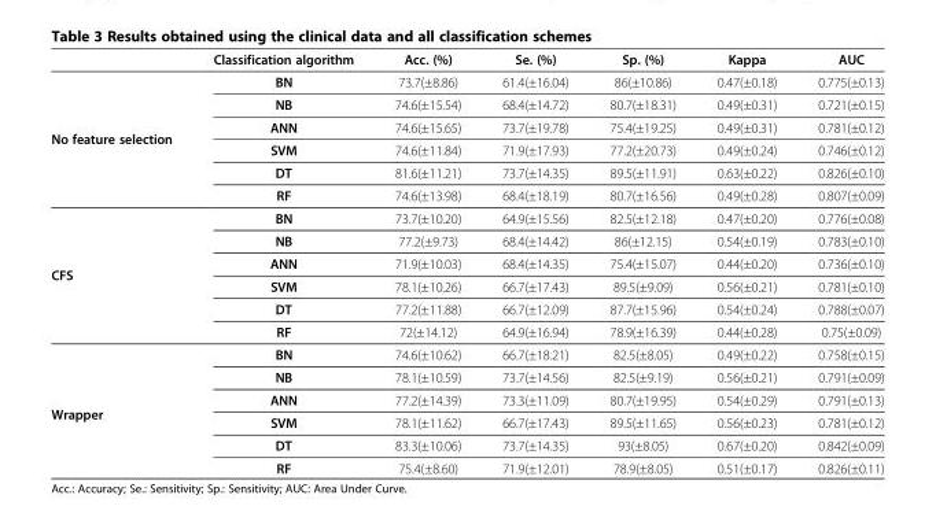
<table><thead><tr><td></td><td>Classification algorithm</td><td>Acc. (%)</td><td>Se. (%)</td><td>Sp. (%)</td><td>Kappa</td><td>AUC</td></tr></thead><tbody><tr><td rowspan="6">No feature selection</td><td>BN</td><td>73.7(±8.86)</td><td>61.4(±16.04)</td><td>86(±10.86)</td><td>0.47(±0.18)</td><td>0.775(±0.13)</td></tr><tr><td>NB</td><td>74.6(±15.54)</td><td>68.4(±14.72)</td><td>80.7(±18.31)</td><td>0.49(±0.31)</td><td>0.721(±0.15)</td></tr><tr><td>ANN</td><td>74.6(±15.65)</td><td>73.7(±19.78)</td><td>75.4(±19.25)</td><td>0.49(±0.31)</td><td>0.781(±0.12)</td></tr><tr><td>SVM</td><td>74.6(±11.84)</td><td>71.9(±17.93)</td><td>77.2(±20.73)</td><td>0.49(±0.24)</td><td>0.746(±0.12)</td></tr><tr><td>DT</td><td>81.6(±11.21)</td><td>73.7(±14.35)</td><td>89.5(±11.91)</td><td>0.63(±0.22)</td><td>0.826(±0.10)</td></tr><tr><td>RF</td><td>74.6(±13.98)</td><td>68.4(±18.19)</td><td>80.7(±16.56)</td><td>0.49(±0.28)</td><td>0.807(±0.09)</td></tr><tr><td rowspan="6">CFS</td><td>BN</td><td>73.7(±10.20)</td><td>64.9(±15.56)</td><td>82.5(±12.18)</td><td>0.47(±0.20)</td><td>0.776(±0.08)</td></tr><tr><td>NB</td><td>77.2(±9.73)</td><td>68.4(±14.42)</td><td>86(±12.15)</td><td>0.54(±0.19)</td><td>0.783(±0.10)</td></tr><tr><td>ANN</td><td>71.9(±10.03)</td><td>68.4(±14.35)</td><td>75.4(±15.07)</td><td>0.44(±0.20)</td><td>0.736(±0.10)</td></tr><tr><td>SVM</td><td>78.1(±10.26)</td><td>66.7(±17.43)</td><td>89.5(±9.09)</td><td>0.56(±0.21)</td><td>0.781(±0.10)</td></tr><tr><td>DT</td><td>77.2(±11.88)</td><td>66.7(±12.09)</td><td>87.7(±15.96)</td><td>0.54(±0.24)</td><td>0.788(±0.07)</td></tr><tr><td>RF</td><td>72(±14.12)</td><td>64.9(±16.94)</td><td>78.9(±16.39)</td><td>0.44(±0.28)</td><td>0.75(±0.09)</td></tr><tr><td rowspan="6">Wrapper</td><td>BN</td><td>74.6(±10.62)</td><td>66.7(±18.21)</td><td>82.5(±8.05)</td><td>0.49(±0.22)</td><td>0.758(±0.15)</td></tr><tr><td>NB</td><td>78.1(±10.59)</td><td>73.7(±14.56)</td><td>82.5(±9.19)</td><td>0.56(±0.21)</td><td>0.791(±0.09)</td></tr><tr><td>ANN</td><td>77.2(±14.39)</td><td>73.3(±11.09)</td><td>80.7(±19.95)</td><td>0.54(±0.29)</td><td>0.791(±0.13)</td></tr><tr><td>SVM</td><td>78.1(±11.62)</td><td>66.7(±17.43)</td><td>89.5(±11.65)</td><td>0.56(±0.23)</td><td>0.781(±0.12)</td></tr><tr><td>DT</td><td>83.3(±10.06)</td><td>73.7(±14.35)</td><td>93(±8.05)</td><td>0.67(±0.20)</td><td>0.842(±0.09)</td></tr><tr><td>RF</td><td>75.4(±8.60)</td><td>71.9(±12.01)</td><td>78.9(±8.05)</td><td>0.51(±0.17)</td><td>0.826(±0.11)</td></tr></tbody></table>